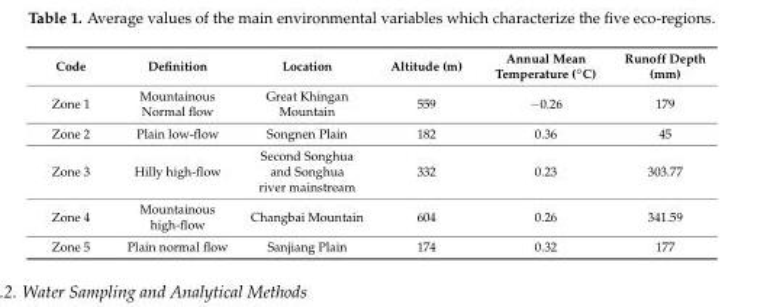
<table><thead><tr><td>Code</td><td>Definition</td><td>Location</td><td>Altitude (m)</td><td>Annual Mean Temperature (◦C)</td><td>Runoff Depth (mm)</td></tr></thead><tbody><tr><td>Zone 1</td><td>Mountainous Normal flow</td><td>Great Khingan Mountain</td><td>559</td><td>−0.26</td><td>179</td></tr><tr><td>Zone 2</td><td>Plain low-flow</td><td>Songnen Plain</td><td>182</td><td>0.36</td><td>45</td></tr><tr><td>Zone 3</td><td>Hilly high-flow</td><td>Second Songhua and Songhua river mainstream</td><td>332</td><td>0.23</td><td>303.77</td></tr><tr><td>Zone 4</td><td>Mountainous high-flow</td><td>Changbai Mountain</td><td>604</td><td>0.26</td><td>341.59</td></tr><tr><td>Zone 5</td><td>Plain normal flow</td><td>Sanjiang Plain</td><td>174</td><td>0.32</td><td>177</td></tr></tbody></table>